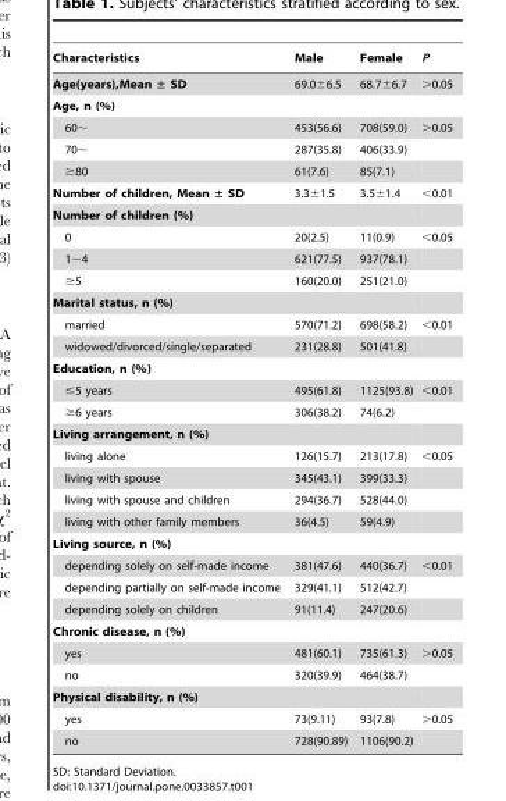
<table><thead><tr><td>Characteristics</td><td>Male</td><td>Female</td><td>P</td></tr></thead><tbody><tr><td>Age(years),Mean ± SD</td><td>69.0±6.5</td><td>68.7±6.7</td><td>&gt;0.05</td></tr><tr><td colspan="4">Age, n (%)</td></tr><tr><td>60∼</td><td>453(56.6)</td><td>708(59.0)</td><td>&gt;0.05</td></tr><tr><td>70∼</td><td>287(35.8)</td><td>406(33.9)</td><td></td></tr><tr><td>≥80</td><td>61(7.6)</td><td>85(7.1)</td><td></td></tr><tr><td>Number of children, Mean ± SD</td><td>3.3±1.5</td><td>3.5±1.4</td><td>&lt;0.01</td></tr><tr><td colspan="4">Number of children (%)</td></tr><tr><td>0</td><td>20(2.5)</td><td>11(0.9)</td><td>&lt;0.05</td></tr><tr><td>1∼4</td><td>621(77.5)</td><td>937(78.1)</td><td></td></tr><tr><td>≥5</td><td>160(20.0)</td><td>251(21.0)</td><td></td></tr><tr><td colspan="4">Marital status, n (%)</td></tr><tr><td>married</td><td>570(71.2)</td><td>698(58.2)</td><td>&lt;0.01</td></tr><tr><td>widowed/divorced/single/separated</td><td>231(28.8)</td><td>501(41.8)</td><td></td></tr><tr><td colspan="4">Education, n (%)</td></tr><tr><td>≤5 years</td><td>495(61.8)</td><td>1125(93.8)</td><td>&lt;0.01</td></tr><tr><td>≥6 years</td><td>306(38.2)</td><td>74(6.2)</td><td></td></tr><tr><td colspan="4">Living arrangement, n (%)</td></tr><tr><td>living alone</td><td>126(15.7)</td><td>213(17.8)</td><td>&lt;0.05</td></tr><tr><td>living with spouse</td><td>345(43.1)</td><td>399(33.3)</td><td></td></tr><tr><td>living with spouse and children</td><td>294(36.7)</td><td>528(44.0)</td><td></td></tr><tr><td>living with other family members</td><td>36(4.5)</td><td>59(4.9)</td><td></td></tr><tr><td colspan="4">Living source, n (%)</td></tr><tr><td>depending solely on self-made income</td><td>381(47.6)</td><td>440(36.7)</td><td>&lt;0.01</td></tr><tr><td>depending partially on self-made income</td><td>329(41.1)</td><td>512(42.7)</td><td></td></tr><tr><td>depending solely on children</td><td>91(11.4)</td><td>247(20.6)</td><td></td></tr><tr><td colspan="4">Chronic disease, n (%)</td></tr><tr><td>yes</td><td>481(60.1)</td><td>735(61.3)</td><td>&gt;0.05</td></tr><tr><td>no</td><td>320(39.9)</td><td>464(38.7)</td><td></td></tr><tr><td colspan="4">Physical disability, n (%)</td></tr><tr><td>yes</td><td>73(9.11)</td><td>93(7.8)</td><td>&gt;0.05</td></tr><tr><td>no</td><td>728(90.89)</td><td>1106(90.2)</td><td></td></tr></tbody></table>